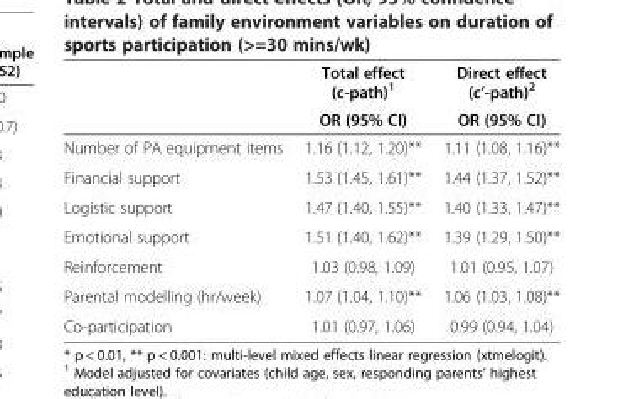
<table><thead><tr><td rowspan="2"></td><td rowspan="2">Total effect (c-path)<sup>1</sup> OR (95% CI)</td><td rowspan="2">Direct effect (c’-path)<sup>2</sup> OR (95% CI)</td></tr><tr></tr></thead><tbody><tr><td>Number of PA equipment items</td><td>1.16 (1.12, 1.20)**</td><td>1.11 (1.08, 1.16)**</td></tr><tr><td>Financial support</td><td>1.53 (1.45, 1.61)**</td><td>1.44 (1.37, 1.52)**</td></tr><tr><td>Logistic support</td><td>1.47 (1.40, 1.55)**</td><td>1.40 (1.33, 1.47)**</td></tr><tr><td>Emotional support</td><td>1.51 (1.40, 1.62)**</td><td>1.39 (1.29, 1.50)**</td></tr><tr><td>Reinforcement</td><td>1.03 (0.98, 1.09)</td><td>1.01 (0.95, 1.07)</td></tr><tr><td>Parental modelling (hr/week)</td><td>1.07 (1.04, 1.10)**</td><td>1.06 (1.03, 1.08)**</td></tr><tr><td>Co-participation</td><td>1.01 (0.97, 1.06)</td><td>0.99 (0.94, 1.04)</td></tr></tbody></table>